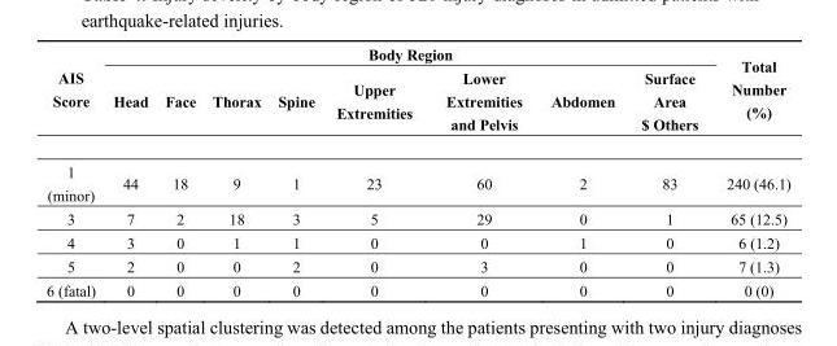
<table><thead><tr><td rowspan="2">AIS Score</td><td colspan="8">Body Region</td><td rowspan="2">Total Number (%)</td></tr><tr><td>Head</td><td>Face</td><td>Thorax</td><td>Spine</td><td>Upper Extremities</td><td>Lower Extremities and Pelvis</td><td>Abdomen</td><td>Surface Area $ Others</td></tr></thead><tbody><tr><td>1 (minor)</td><td>44</td><td>18</td><td>9</td><td>1</td><td>23</td><td>60</td><td>2</td><td>83</td><td>240 (46.1)</td></tr><tr><td>3</td><td>7</td><td>2</td><td>18</td><td>3</td><td>5</td><td>29</td><td>0</td><td>1</td><td>65 (12.5)</td></tr><tr><td>4</td><td>3</td><td>0</td><td>1</td><td>1</td><td>0</td><td>0</td><td>1</td><td>0</td><td>6 (1.2)</td></tr><tr><td>5</td><td>2</td><td>0</td><td>0</td><td>2</td><td>0</td><td>3</td><td>0</td><td>0</td><td>7 (1.3)</td></tr><tr><td>6 (fatal)</td><td>0</td><td>0</td><td>0</td><td>0</td><td>0</td><td>0</td><td>0</td><td>0</td><td>0 (0)</td></tr></tbody></table>